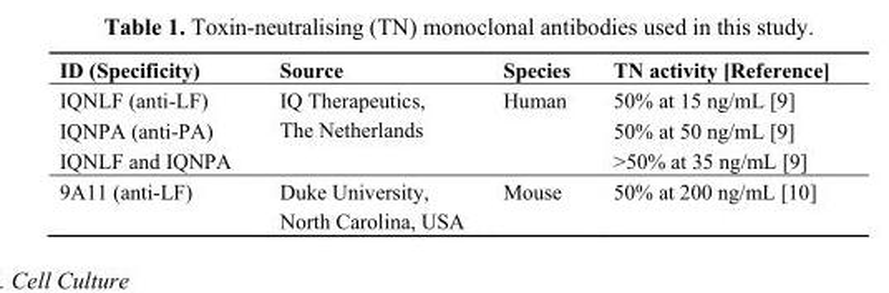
<table><thead><tr><td>ID (Specificity)</td><td>Source</td><td>Species</td><td>TN activity [Reference]</td></tr></thead><tbody><tr><td>IQNLF (anti-LF)</td><td rowspan="3">IQ Therapeutics, The Netherlands</td><td>Human</td><td>50% at 15 ng/mL [9]</td></tr><tr><td>IQNPA (anti-PA)</td><td></td><td>50% at 50 ng/mL [9]</td></tr><tr><td>IQNLF and IQNPA</td><td></td><td>&gt;50% at 35 ng/mL [9]</td></tr><tr><td>9A11 (anti-LF)</td><td>Duke University, North Carolina, USA</td><td>Mouse</td><td>50% at 200 ng/mL [10]</td></tr></tbody></table>